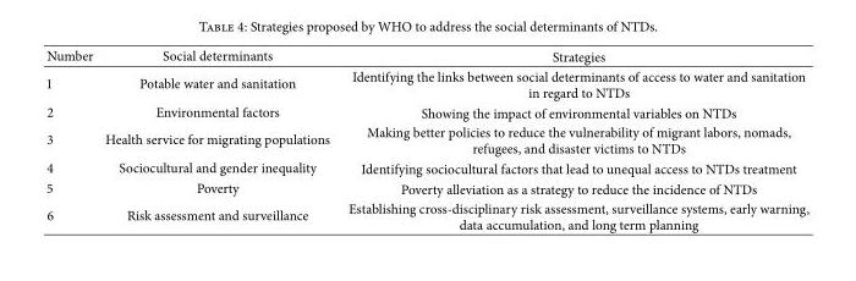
<table><thead><tr><td>Number</td><td>Social determinants</td><td>Strategies</td></tr></thead><tbody><tr><td>1</td><td>Potable water and sanitation</td><td>Identifying the links between social determinants of access to water and sanitation in regard to NTDs</td></tr><tr><td>2</td><td>Environmental factors</td><td>Showing the impact of environmental variables on NTDs</td></tr><tr><td>3</td><td>Health service for migrating populations</td><td>Making better policies to reduce the vulnerability of migrant labors, nomads, refugees, and disaster victims to NTDs</td></tr><tr><td>4</td><td>Sociocultural and gender inequality</td><td>Identifying sociocultural factors that lead to unequal access to NTDs treatment</td></tr><tr><td>5</td><td>Poverty</td><td>Poverty alleviation as a strategy to reduce the incidence of NTDs</td></tr><tr><td>6</td><td>Risk assessment and surveillance</td><td>Establishing cross-disciplinary risk assessment, surveillance systems, early warning, data accumulation, and long term planning</td></tr></tbody></table>